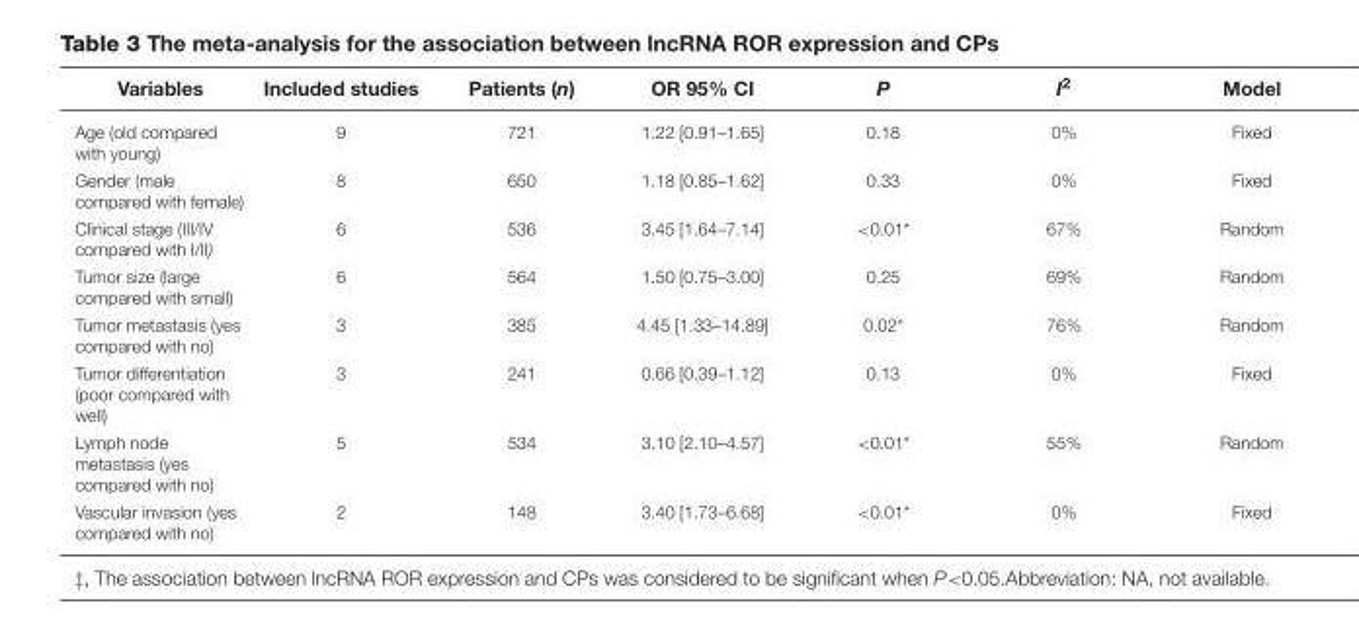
<table><thead><tr><td>Variables</td><td>Included studies</td><td>Patients (n)</td><td>OR 95% CI</td><td>P</td><td>I<sup>2</sup></td><td>Model</td></tr></thead><tbody><tr><td>Age (old compared with young)</td><td>9</td><td>721</td><td>1.22 [0.91–1.65]</td><td>0.18</td><td>0%</td><td>Fixed</td></tr><tr><td>Gender (male compared with female)</td><td>8</td><td>650</td><td>1.18 [0.85–1.62]</td><td>0.33</td><td>0%</td><td>Fixed</td></tr><tr><td>Clinical stage (III/IV compared with I/II)</td><td>6</td><td>536</td><td>3.45 [1.64–7.14]</td><td>&lt;0.01*</td><td>67%</td><td>Random</td></tr><tr><td>Tumor size (large compared with small)</td><td>6</td><td>564</td><td>1.50 [0.75–3.00]</td><td>0.25</td><td>69%</td><td>Random</td></tr><tr><td>Tumor metastasis (yes compared with no)</td><td>3</td><td>385</td><td>4.45 [1.33–14.89]</td><td>0.02*</td><td>76%</td><td>Random</td></tr><tr><td>Tumor differentiation (poor compared with well)</td><td>3</td><td>241</td><td>0.66 [0.39–1.12]</td><td>0.13</td><td>0%</td><td>Fixed</td></tr><tr><td>Lymph node metastasis (yes compared with no)</td><td>5</td><td>534</td><td>3.10 [2.10–4.57]</td><td>&lt;0.01*</td><td>55%</td><td>Random</td></tr><tr><td>Vascular invasion (yes compared with no)</td><td>2</td><td>148</td><td>3.40 [1.73–6.68]</td><td>&lt;0.01*</td><td>0%</td><td>Fixed</td></tr></tbody></table>